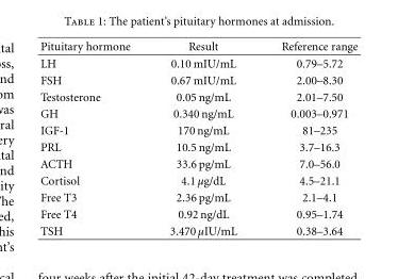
<table><thead><tr><td>Pituitary hormone</td><td>Result</td><td>Reference range</td></tr></thead><tbody><tr><td>LH</td><td>0.10 mIU/mL</td><td>0.79–5.72</td></tr><tr><td>FSH</td><td>0.67 mIU/mL</td><td>2.00–8.30</td></tr><tr><td>Testosterone</td><td>0.05 ng/mL</td><td>2.01–7.50</td></tr><tr><td>GH</td><td>0.340 ng/mL</td><td>0.003–0.971</td></tr><tr><td>IGF-1</td><td>170 ng/mL</td><td>81–235</td></tr><tr><td>PRL</td><td>10.5 ng/mL</td><td>3.7–16.3</td></tr><tr><td>ACTH</td><td>33.6 pg/mL</td><td>7.0–56.0</td></tr><tr><td>Cortisol</td><td>4.1 µg/dL</td><td>4.5–21.1</td></tr><tr><td>Free T3</td><td>2.36 pg/mL</td><td>2.1–4.1</td></tr><tr><td>Free T4</td><td>0.92 ng/dL</td><td>0.95–1.74</td></tr><tr><td>TSH</td><td>3.470 µIU/mL</td><td>0.38–3.64</td></tr></tbody></table>